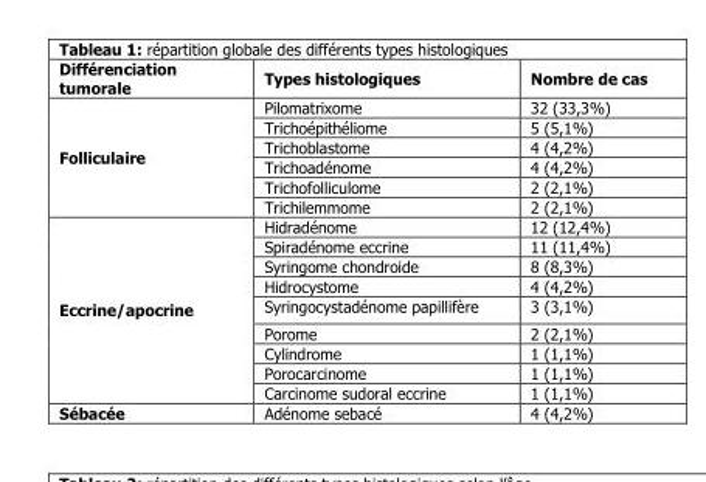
<table><thead><tr><td>Différenciation tumorale</td><td>Types histologiques</td><td>Nombre de cas</td></tr></thead><tbody><tr><td rowspan="6">Folliculaire</td><td>Pilomatrixome</td><td>32 (33,3%)</td></tr><tr><td>Trichoépithéliome</td><td>5 (5,1%)</td></tr><tr><td>Trichoblastome</td><td>4 (4,2%)</td></tr><tr><td>Trichoadénome</td><td>4 (4,2%)</td></tr><tr><td>Trichofolliculome</td><td>2 (2,1%)</td></tr><tr><td>Trichilemmome</td><td>2 (2,1%)</td></tr><tr><td rowspan="9">Eccrine/apocrine</td><td>Hidradénome</td><td>12 (12,4%)</td></tr><tr><td>Spiradénome eccrine</td><td>11 (11,4%)</td></tr><tr><td>Syringome chondroide</td><td>8 (8,3%)</td></tr><tr><td>Hidrocystome</td><td>4 (4,2%)</td></tr><tr><td>Syringocystadénome papillifère</td><td>3 (3,1%)</td></tr><tr><td>Porome</td><td>2 (2,1%)</td></tr><tr><td>Cylindrome</td><td>1 (1,1%)</td></tr><tr><td>Porocarcinome</td><td>1 (1,1%)</td></tr><tr><td>Carcinome sudoral eccrine</td><td>1 (1,1%)</td></tr><tr><td>Sébacée</td><td>Adénome sebacé</td><td>4 (4,2%)</td></tr></tbody></table>